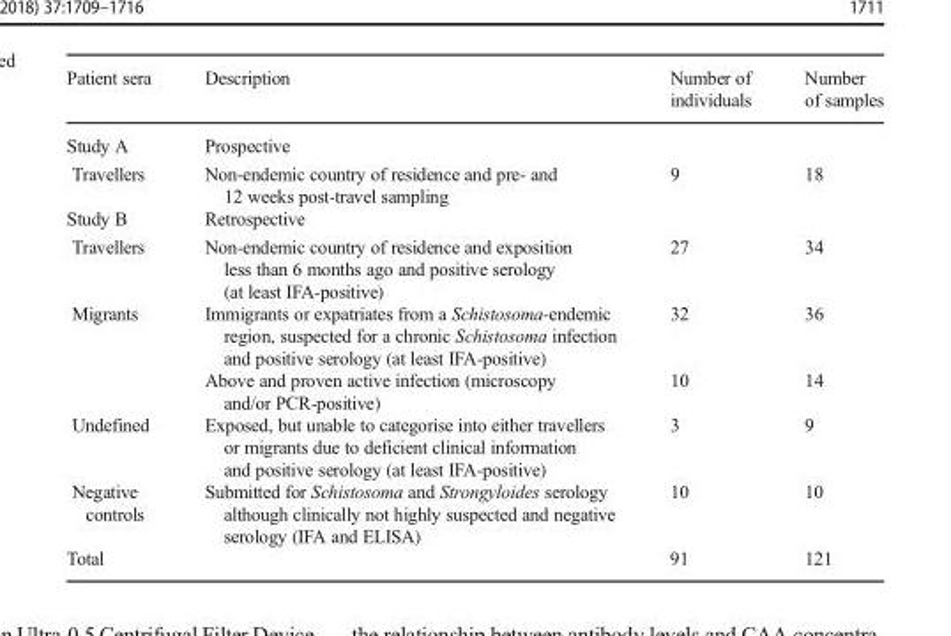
<table><thead><tr><td>Patient sera</td><td>Description</td><td>Number of individuals</td><td>Number of samples</td></tr></thead><tbody><tr><td>Study A</td><td>Prospective</td><td></td><td></td></tr><tr><td>Travellers</td><td>Non-endemic country of residence and pre- and 12 weeks post-travel sampling</td><td>9</td><td>18</td></tr><tr><td>Study B</td><td>Retrospective</td><td></td><td></td></tr><tr><td>Travellers</td><td>Non-endemic country of residence and exposition less than 6 months ago and positive serology (at least IFA-positive)</td><td>27</td><td>34</td></tr><tr><td rowspan="2">Migrants</td><td>Immigrants or expatriates from a Schistosoma-endemic region, suspected for a chronic Schistosoma infection and positive serology (at least IFA-positive)</td><td>32</td><td>36</td></tr><tr><td>Above and proven active infection (microscopy and/or PCR-positive)</td><td>10</td><td>14</td></tr><tr><td>Undefined</td><td>Exposed, but unable to categorise into either travellers or migrants due to deficient clinical information and positive serology (at least IFA-positive)</td><td>3</td><td>9</td></tr><tr><td>Negative controls</td><td>Submitted for Schistosoma and Strongyloides serology although clinically not highly suspected and negative serology (IFA and ELISA)</td><td>10</td><td>10</td></tr><tr><td>Total</td><td></td><td>91</td><td>121</td></tr></tbody></table>